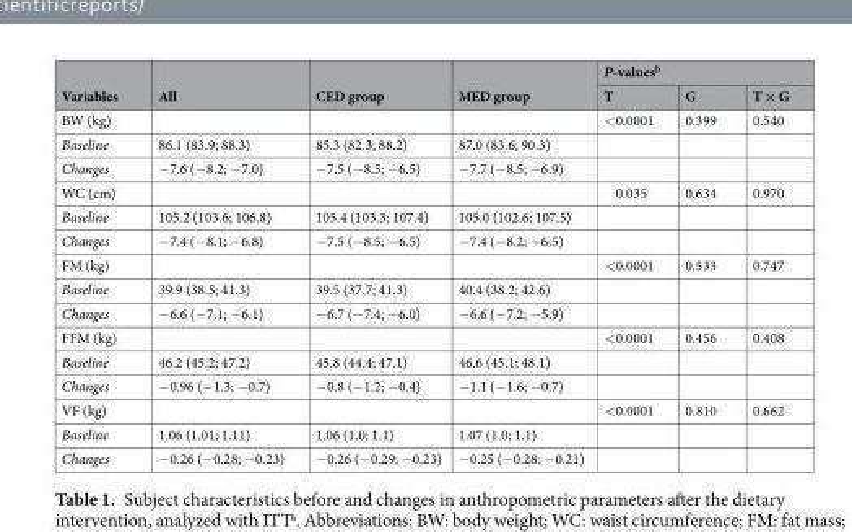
<table><thead><tr><td rowspan="2">Variables</td><td rowspan="2">All</td><td rowspan="2">CED group</td><td rowspan="2">MED group</td><td colspan="3">P-values<sup>b</sup></td></tr><tr><td>T</td><td>G</td><td>T × G</td></tr></thead><tbody><tr><td>BW (kg)</td><td></td><td></td><td></td><td>&lt;0.0001</td><td>0.399</td><td>0.540</td></tr><tr><td>Baseline</td><td>86.1 (83.9; 88.3)</td><td>85.3 (82.3; 88.2)</td><td>87.0 (83.6; 90.3)</td><td></td><td></td><td></td></tr><tr><td>Changes</td><td>−7.6 (−8.2; −7.0)</td><td>−7.5 (−8.5; −6.5)</td><td>−7.7 (−8.5; −6.9)</td><td></td><td></td><td></td></tr><tr><td>WC (cm)</td><td></td><td></td><td></td><td>0.035</td><td>0.634</td><td>0.970</td></tr><tr><td>Baseline</td><td>105.2 (103.6; 106.8)</td><td>105.4 (103.3; 107.4)</td><td>105.0 (102.6; 107.5)</td><td></td><td></td><td></td></tr><tr><td>Changes</td><td>−7.4 (−8.1; −6.8)</td><td>−7.5 (−8.5; −6.5)</td><td>−7.4 (−8.2; −6.5)</td><td></td><td></td><td></td></tr><tr><td>FM (kg)</td><td></td><td></td><td></td><td>&lt;0.0001</td><td>0.533</td><td>0.747</td></tr><tr><td>Baseline</td><td>39.9 (38.5; 41.3)</td><td>39.5 (37.7; 41.3)</td><td>40.4 (38.2; 42.6)</td><td></td><td></td><td></td></tr><tr><td>Changes</td><td>−6.6 (−7.1; −6.1)</td><td>−6.7 (−7.4; −6.0)</td><td>−6.6 (−7.2; −5.9)</td><td></td><td></td><td></td></tr><tr><td>FFM (kg)</td><td></td><td></td><td></td><td>&lt;0.0001</td><td>0.456</td><td>0.408</td></tr><tr><td>Baseline</td><td>46.2 (45.2; 47.2)</td><td>45.8 (44.4; 47.1)</td><td>46.6 (45.1; 48.1)</td><td></td><td></td><td></td></tr><tr><td>Changes</td><td>−0.96 (−1.3; −0.7)</td><td>−0.8 (−1.2; −0.4)</td><td>−1.1 (−1.6; −0.7)</td><td></td><td></td><td></td></tr><tr><td>VF (kg)</td><td></td><td></td><td></td><td>&lt;0.0001</td><td>0.810</td><td>0.662</td></tr><tr><td>Baseline</td><td>1.06 (1.01; 1.11)</td><td>1.06 (1.0; 1.1)</td><td>1.07 (1.0; 1.1)</td><td></td><td></td><td></td></tr><tr><td>Changes</td><td>−0.26 (−0.28; −0.23)</td><td>−0.26 (−0.29; −0.23)</td><td>−0.25 (−0.28; −0.21)</td><td></td><td></td><td></td></tr></tbody></table>